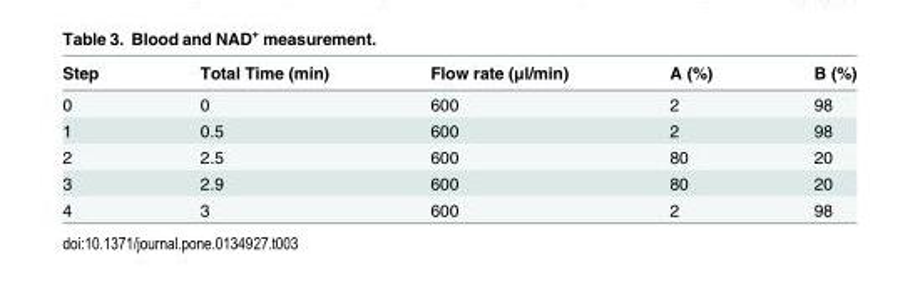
<table><thead><tr><td>Step</td><td>Total Time (min)</td><td>Flow rate (μl/min)</td><td>A (%)</td><td>B (%)</td></tr></thead><tbody><tr><td>0</td><td>0</td><td>600</td><td>2</td><td>98</td></tr><tr><td>1</td><td>0.5</td><td>600</td><td>2</td><td>98</td></tr><tr><td>2</td><td>2.5</td><td>600</td><td>80</td><td>20</td></tr><tr><td>3</td><td>2.9</td><td>600</td><td>80</td><td>20</td></tr><tr><td>4</td><td>3</td><td>600</td><td>2</td><td>98</td></tr></tbody></table>